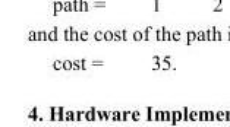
<table><tbody><tr><td>cost =</td><td>35.</td></tr></tbody></table>